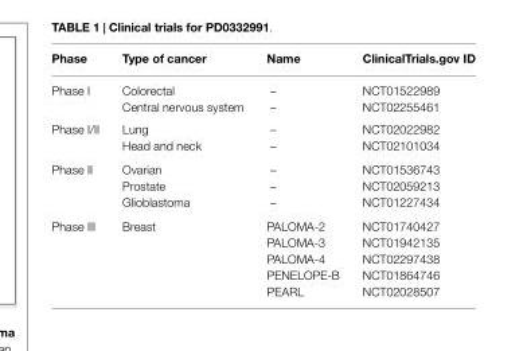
<table><thead><tr><td>Phase</td><td>Type of cancer</td><td>Name</td><td>ClinicalTrials.gov ID</td></tr></thead><tbody><tr><td rowspan="2">Phase I</td><td>Colorectal</td><td>–</td><td>NCT01522989</td></tr><tr><td>Central nervous system</td><td>–</td><td>NCT02255461</td></tr><tr><td rowspan="2">Phase I/II</td><td>Lung</td><td>–</td><td>NCT02022982</td></tr><tr><td>Head and neck</td><td>–</td><td>NCT02101034</td></tr><tr><td rowspan="3">Phase II</td><td>Ovarian</td><td>–</td><td>NCT01536743</td></tr><tr><td>Prostate</td><td>–</td><td>NCT02059213</td></tr><tr><td>Glioblastoma</td><td>–</td><td>NCT01227434</td></tr><tr><td rowspan="5">Phase III</td><td>Breast</td><td>PALOMA-2</td><td>NCT01740427</td></tr><tr><td></td><td>PALOMA-3</td><td>NCT01942135</td></tr><tr><td></td><td>PALOMA-4</td><td>NCT02297438</td></tr><tr><td></td><td>PENELOPE-B</td><td>NCT01864746</td></tr><tr><td></td><td>PEARL</td><td>NCT02028507</td></tr></tbody></table>